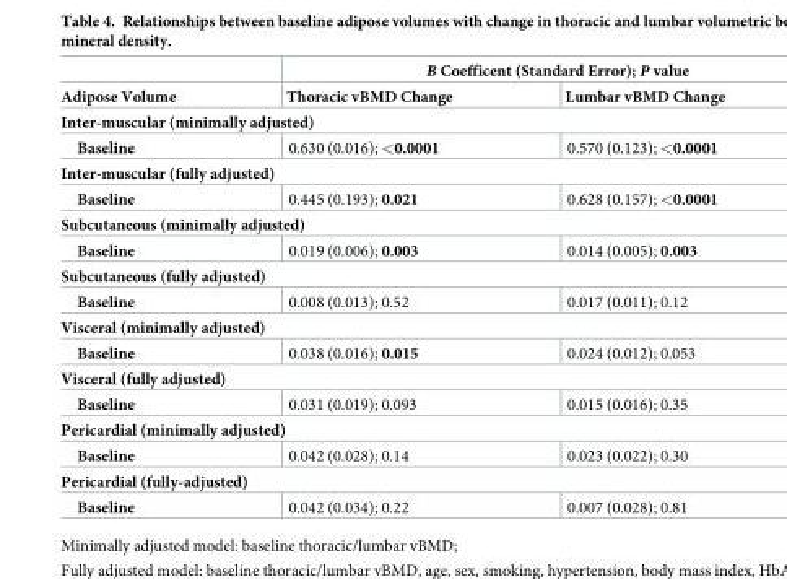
<table><thead><tr><td rowspan="2">Adipose Volume</td><td colspan="2">Β Coefficent (Standard Error); P value</td></tr><tr><td>Thoracic vBMD Change</td><td>Lumbar vBMD Change</td></tr></thead><tbody><tr><td colspan="3">Inter-muscular (minimally adjusted)</td></tr><tr><td>Baseline</td><td>0.630 (0.016); &lt;0.0001</td><td>0.570 (0.123); &lt;0.0001</td></tr><tr><td colspan="3">Inter-muscular (fully adjusted)</td></tr><tr><td>Baseline</td><td>0.445 (0.193); 0.021</td><td>0.628 (0.157); &lt;0.0001</td></tr><tr><td colspan="3">Subcutaneous (minimally adjusted)</td></tr><tr><td>Baseline</td><td>0.019 (0.006); 0.003</td><td>0.014 (0.005); 0.003</td></tr><tr><td colspan="3">Subcutaneous (fully adjusted)</td></tr><tr><td>Baseline</td><td>0.008 (0.013); 0.52</td><td>0.017 (0.011); 0.12</td></tr><tr><td colspan="3">Visceral (minimally adjusted)</td></tr><tr><td>Baseline</td><td>0.038 (0.016); 0.015</td><td>0.024 (0.012); 0.053</td></tr><tr><td colspan="3">Visceral (fully adjusted)</td></tr><tr><td>Baseline</td><td>0.031 (0.019); 0.093</td><td>0.015 (0.016); 0.35</td></tr><tr><td colspan="3">Pericardial (minimally adjusted)</td></tr><tr><td>Baseline</td><td>0.042 (0.028); 0.14</td><td>0.023 (0.022); 0.30</td></tr><tr><td colspan="3">Pericardial (fully-adjusted)</td></tr><tr><td>Baseline</td><td>0.042 (0.034); 0.22</td><td>0.007 (0.028); 0.81</td></tr></tbody></table>